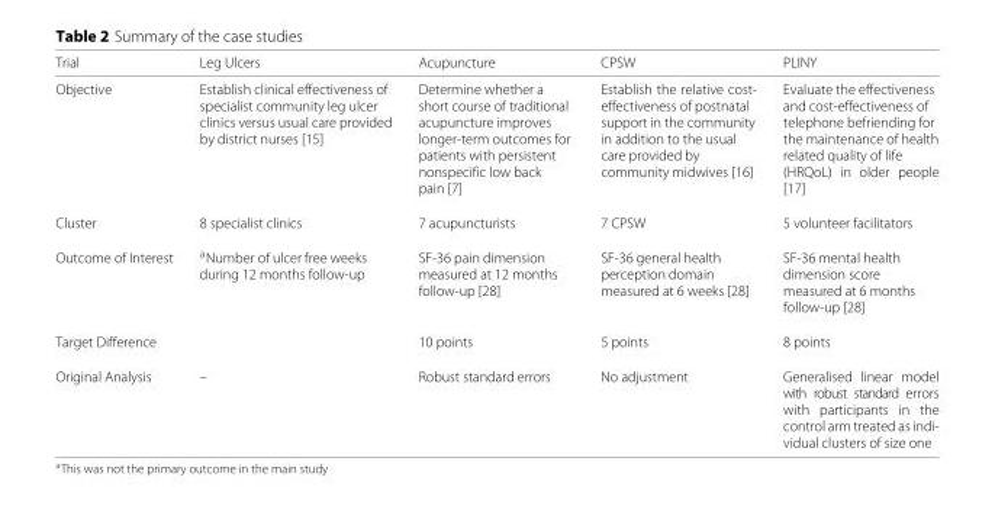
<table><thead><tr><td>Trial</td><td>Leg Ulcers</td><td>Acupuncture</td><td>CPSW</td><td>PLINY</td></tr></thead><tbody><tr><td>Objective</td><td>Establish clinical effectiveness of specialist community leg ulcer clinics versus usual care provided by district nurses [15]</td><td>Determine whether a short course of traditional acupuncture improves longer-term outcomes for patients with persistent nonspecific low back pain [7]</td><td>Establish the relative cost- effectiveness of postnatal support in the community in addition to the usual care provided by community midwives [16]</td><td>Evaluate the effectiveness and cost-effectiveness of telephone befriending for the maintenance of health related quality of life (HRQoL) in older people [17]</td></tr><tr><td>Cluster</td><td>8 specialist clinics</td><td>7 acupuncturists</td><td>7 CPSW</td><td>5 volunteer facilitators</td></tr><tr><td>Outcome of Interest</td><td><sup>a</sup>Number of ulcer free weeks during 12 months follow-up</td><td>SF-36 pain dimension measured at 12 months follow-up [28]</td><td>SF-36 general health perception domain measured at 6 weeks [28]</td><td>SF-36 mental health dimension score measured at 6 months follow-up [28]</td></tr><tr><td>Target Difference</td><td></td><td>10 points</td><td>5 points</td><td>8 points</td></tr><tr><td>Original Analysis</td><td>–</td><td>Robust standard errors</td><td>No adjustment</td><td>Generalised linear model with robust standard errors with participants in the control arm treated as indi- vidual clusters of size one</td></tr></tbody></table>